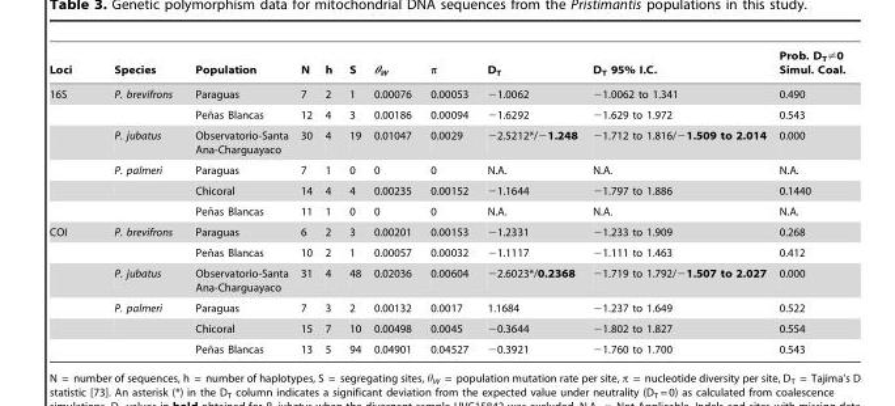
<table><thead><tr><td>Loci</td><td>Species</td><td>Population</td><td>N</td><td>h</td><td>S</td><td>θ<sub>W</sub></td><td>π</td><td>D<sub>T</sub></td><td>D<sub>T</sub> 95% I.C.</td><td>Prob. D<sub>T</sub>≠0 Simul. Coal.</td></tr></thead><tbody><tr><td rowspan="6">16S</td><td>P. brevifrons</td><td>Paraguas</td><td>7</td><td>2</td><td>1</td><td>0.00076</td><td>0.00053</td><td>−1.0062</td><td>−1.0062 to 1.341</td><td>0.490</td></tr><tr><td></td><td>Pen˜as Blancas</td><td>12</td><td>4</td><td>3</td><td>0.00186</td><td>0.00094</td><td>−1.6292</td><td>−1.629 to 1.972</td><td>0.543</td></tr><tr><td>P. jubatus</td><td>Observatorio-Santa Ana-Charguayaco</td><td>30</td><td>4</td><td>19</td><td>0.01047</td><td>0.0029</td><td>−2.5212*/−1.248</td><td>−1.712 to 1.816/−1.509 to 2.014</td><td>0.000</td></tr><tr><td>P. palmeri</td><td>Paraguas</td><td>7</td><td>1</td><td>0</td><td>0</td><td>0</td><td>N.A.</td><td>N.A.</td><td>N.A.</td></tr><tr><td></td><td>Chicoral</td><td>14</td><td>4</td><td>4</td><td>0.00235</td><td>0.00152</td><td>−1.1644</td><td>−1.797 to 1.886</td><td>0.1440</td></tr><tr><td></td><td>Pen˜as Blancas</td><td>11</td><td>1</td><td>0</td><td>0</td><td>0</td><td>N.A.</td><td>N.A.</td><td>N.A.</td></tr><tr><td rowspan="6">COI</td><td>P. brevifrons</td><td>Paraguas</td><td>6</td><td>2</td><td>3</td><td>0.00201</td><td>0.00153</td><td>−1.2331</td><td>−1.233 to 1.909</td><td>0.268</td></tr><tr><td></td><td>Pen˜as Blancas</td><td>10</td><td>2</td><td>1</td><td>0.00057</td><td>0.00032</td><td>−1.1117</td><td>−1.111 to 1.463</td><td>0.412</td></tr><tr><td>P. jubatus</td><td>Observatorio-Santa Ana-Charguayaco</td><td>31</td><td>4</td><td>48</td><td>0.02036</td><td>0.00604</td><td>−2.6023*/0.2368</td><td>−1.719 to 1.792/−1.507 to 2.027</td><td>0.000</td></tr><tr><td>P. palmeri</td><td>Paraguas</td><td>7</td><td>3</td><td>2</td><td>0.00132</td><td>0.0017</td><td>1.1684</td><td>−1.237 to 1.649</td><td>0.522</td></tr><tr><td></td><td>Chicoral</td><td>15</td><td>7</td><td>10</td><td>0.00498</td><td>0.0045</td><td>−0.3644</td><td>−1.802 to 1.827</td><td>0.554</td></tr><tr><td></td><td>Pen˜as Blancas</td><td>13</td><td>5</td><td>94</td><td>0.04901</td><td>0.04527</td><td>−0.3921</td><td>−1.760 to 1.700</td><td>0.543</td></tr></tbody></table>